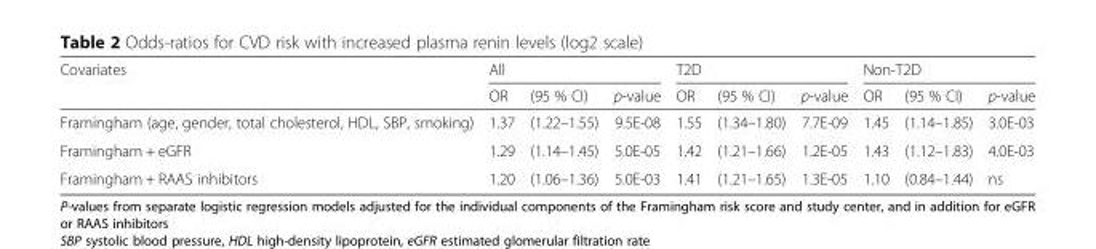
<table><thead><tr><td rowspan="2">Covariates</td><td colspan="3">All</td><td colspan="3">T2D</td><td colspan="3">Non-T2D</td></tr><tr><td>OR</td><td>(95 % CI)</td><td>p-value</td><td>OR</td><td>(95 % CI)</td><td>p-value</td><td>OR</td><td>(95 % CI)</td><td>p-value</td></tr></thead><tbody><tr><td>Framingham (age, gender, total cholesterol, HDL, SBP, smoking)</td><td>1.37</td><td>(1.22–1.55)</td><td>9.5E-08</td><td>1.55</td><td>(1.34–1.80)</td><td>7.7E-09</td><td>1.45</td><td>(1.14–1.85)</td><td>3.0E-03</td></tr><tr><td>Framingham + eGFR</td><td>1.29</td><td>(1.14–1.45)</td><td>5.0E-05</td><td>1.42</td><td>(1.21–1.66)</td><td>1.2E-05</td><td>1.43</td><td>(1.12–1.83)</td><td>4.0E-03</td></tr><tr><td>Framingham + RAAS inhibitors</td><td>1.20</td><td>(1.06–1.36)</td><td>5.0E-03</td><td>1.41</td><td>(1.21–1.65)</td><td>1.3E-05</td><td>1.10</td><td>(0.84–1.44)</td><td>ns</td></tr></tbody></table>